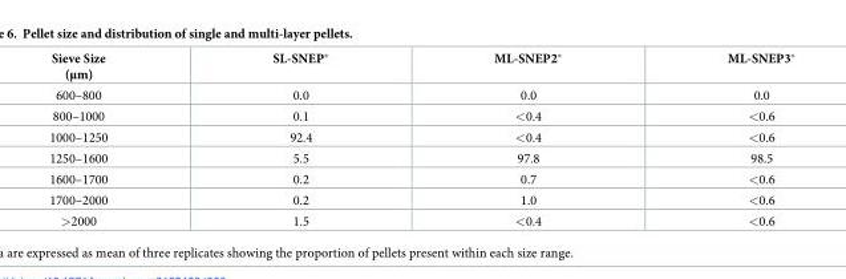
<table><thead><tr><td>Sieve Size (μm)</td><td>SL-SNEP*</td><td>ML-SNEP2*</td><td>ML-SNEP3*</td></tr></thead><tbody><tr><td>600–800</td><td>0.0</td><td>0.0</td><td>0.0</td></tr><tr><td>800–1000</td><td>0.1</td><td>&lt;0.4</td><td>&lt;0.6</td></tr><tr><td>1000–1250</td><td>92.4</td><td>&lt;0.4</td><td>&lt;0.6</td></tr><tr><td>1250–1600</td><td>5.5</td><td>97.8</td><td>98.5</td></tr><tr><td>1600–1700</td><td>0.2</td><td>0.7</td><td>&lt;0.6</td></tr><tr><td>1700–2000</td><td>0.2</td><td>1.0</td><td>&lt;0.6</td></tr><tr><td>&gt;2000</td><td>1.5</td><td>&lt;0.4</td><td>&lt;0.6</td></tr></tbody></table>